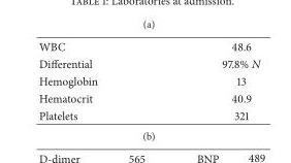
<table><tbody><tr><td>WBC</td><td>48.6</td></tr><tr><td>Differential</td><td>97.8%</td></tr><tr><td>Hemoglobin</td><td>13</td></tr><tr><td>Hematocrit</td><td>40.9</td></tr><tr><td>Platelets</td><td>321</td></tr></tbody></table>